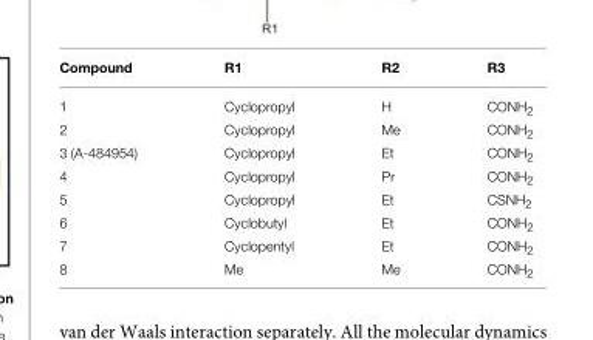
<table><tbody><tr><td>Compound</td><td>R1</td><td>R2</td><td>R3</td></tr><tr><td>1</td><td>Cyclopropyl</td><td>H</td><td>CONH<sub>2</sub></td></tr><tr><td>2</td><td>Cyclopropyl</td><td>Me</td><td>CONH<sub>2</sub></td></tr><tr><td>3 (A-484954)</td><td>Cyclopropyl</td><td>Et</td><td>CONH<sub>2</sub></td></tr><tr><td>4</td><td>Cyclopropyl</td><td>Pr</td><td>CONH<sub>2</sub></td></tr><tr><td>5</td><td>Cyclopropyl</td><td>Et</td><td>CSNH<sub>2</sub></td></tr><tr><td>6</td><td>Cyclobutyl</td><td>Et</td><td>CONH<sub>2</sub></td></tr><tr><td>7</td><td>Cyclopentyl</td><td>Et</td><td>CONH<sub>2</sub></td></tr><tr><td>8</td><td>Me</td><td>Me</td><td>CONH<sub>2</sub></td></tr></tbody></table>